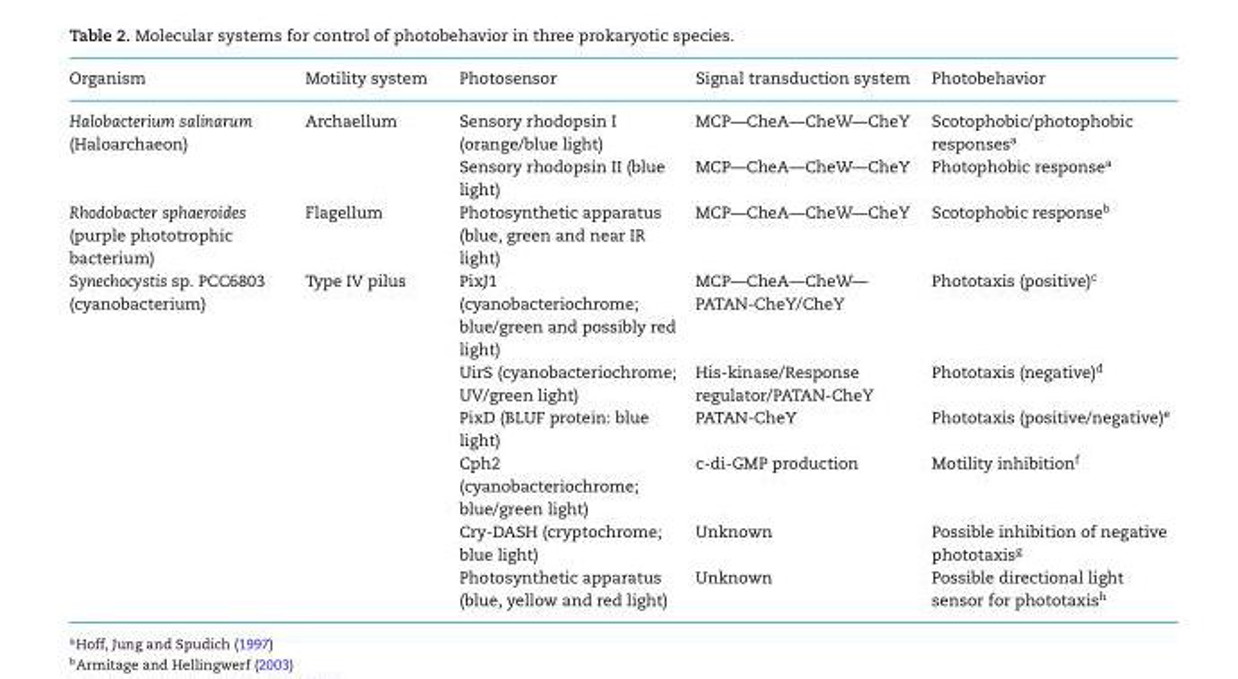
<table><thead><tr><td>Organism</td><td>Motility system</td><td>Photosensor</td><td>Signal transduction system</td><td>Photobehavior</td></tr></thead><tbody><tr><td rowspan="2">Halobacterium salinarum (Haloarchaeon)</td><td>Archaellum</td><td>Sensory rhodopsin I (orange/blue light)</td><td>MCP—CheA—CheW—CheY</td><td>Scotophobic/photophobic responses<sup>a</sup></td></tr><tr><td></td><td>Sensory rhodopsin II (blue light)</td><td>MCP—CheA—CheW—CheY</td><td>Photophobic response<sup>a</sup></td></tr><tr><td>Rhodobacter sphaeroides (purple phototrophic bacterium)</td><td>Flagellum</td><td>Photosynthetic apparatus (blue, green and near IR light)</td><td>MCP—CheA—CheW—CheY</td><td>Scotophobic response<sup>b</sup></td></tr><tr><td rowspan="6">Synechocystis sp. PCC6803 (cyanobacterium)</td><td>Type IV pilus</td><td>PixJ1 (cyanobacteriochrome; blue/green and possibly red light)</td><td>MCP—CheA—CheW— PATAN-CheY/CheY</td><td>Phototaxis (positive)<sup>c</sup></td></tr><tr><td></td><td>UirS (cyanobacteriochrome; UV/green light)</td><td>His-kinase/Response regulator/PATAN-CheY</td><td>Phototaxis (negative)<sup>d</sup></td></tr><tr><td></td><td>PixD (BLUF protein: blue light)</td><td>PATAN-CheY</td><td>Phototaxis (positive/negative)<sup>e</sup></td></tr><tr><td></td><td>Cph2 (cyanobacteriochrome; blue/green light)</td><td>c-di-GMP production</td><td>Motility inhibition<sup>f</sup></td></tr><tr><td></td><td>Cry-DASH (cryptochrome; blue light)</td><td>Unknown</td><td>Possible inhibition of negative phototaxis<sup>g</sup></td></tr><tr><td></td><td>Photosynthetic apparatus (blue, yellow and red light)</td><td>Unknown</td><td>Possible directional light sensor for phototaxis<sup>h</sup></td></tr></tbody></table>